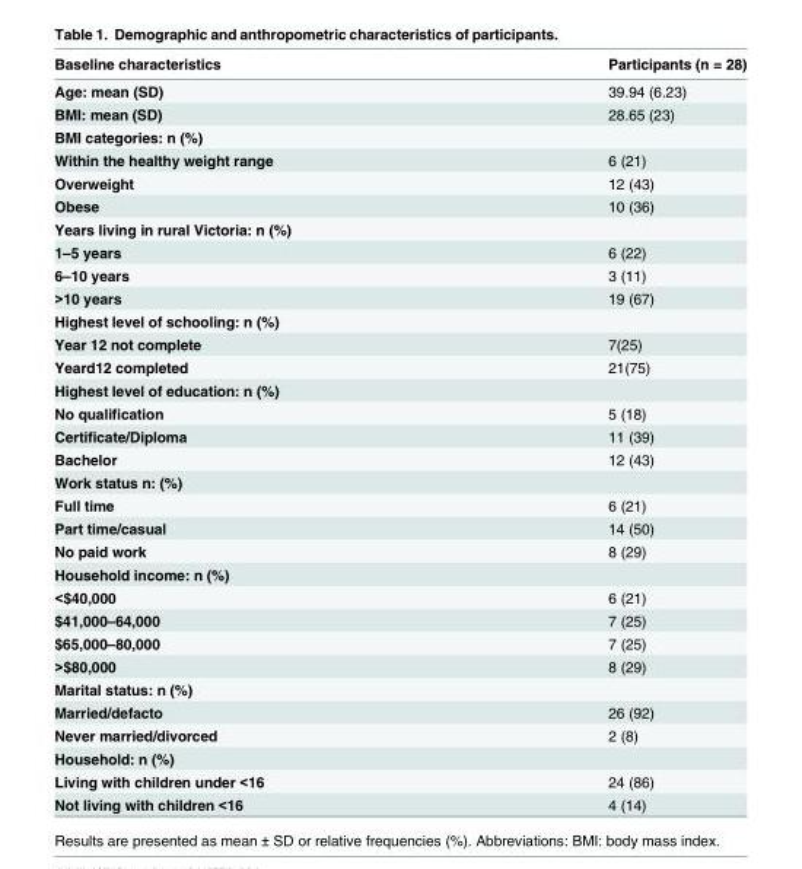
<table><thead><tr><td>Baseline characteristics</td><td>Participants (n = 28)</td></tr></thead><tbody><tr><td>Age: mean (SD)</td><td>39.94 (6.23)</td></tr><tr><td>BMI: mean (SD)</td><td>28.65 (23)</td></tr><tr><td colspan="2">BMI categories: n (%)</td></tr><tr><td>Within the healthy weight range</td><td>6 (21)</td></tr><tr><td>Overweight</td><td>12 (43)</td></tr><tr><td>Obese</td><td>10 (36)</td></tr><tr><td colspan="2">Years living in rural Victoria: n (%)</td></tr><tr><td>1–5 years</td><td>6 (22)</td></tr><tr><td>6–10 years</td><td>3 (11)</td></tr><tr><td>&gt;10 years</td><td>19 (67)</td></tr><tr><td colspan="2">Highest level of schooling: n (%)</td></tr><tr><td>Year 12 not complete</td><td>7(25)</td></tr><tr><td>Yeard12 completed</td><td>21(75)</td></tr><tr><td colspan="2">Highest level of education: n (%)</td></tr><tr><td>No qualification</td><td>5 (18)</td></tr><tr><td>Certificate/Diploma</td><td>11 (39)</td></tr><tr><td>Bachelor</td><td>12 (43)</td></tr><tr><td colspan="2">Work status n: (%)</td></tr><tr><td>Full time</td><td>6 (21)</td></tr><tr><td>Part time/casual</td><td>14 (50)</td></tr><tr><td>No paid work</td><td>8 (29)</td></tr><tr><td colspan="2">Household income: n (%)</td></tr><tr><td>&lt;$40,000</td><td>6 (21)</td></tr><tr><td>$41,000–64,000</td><td>7 (25)</td></tr><tr><td>$65,000–80,000</td><td>7 (25)</td></tr><tr><td>&gt;$80,000</td><td>8 (29)</td></tr><tr><td colspan="2">Marital status: n (%)</td></tr><tr><td>Married/defacto</td><td>26 (92)</td></tr><tr><td>Never married/divorced</td><td>2 (8)</td></tr><tr><td colspan="2">Household: n (%)</td></tr><tr><td>Living with children under &lt;16</td><td>24 (86)</td></tr><tr><td>Not living with children &lt;16</td><td>4 (14)</td></tr></tbody></table>